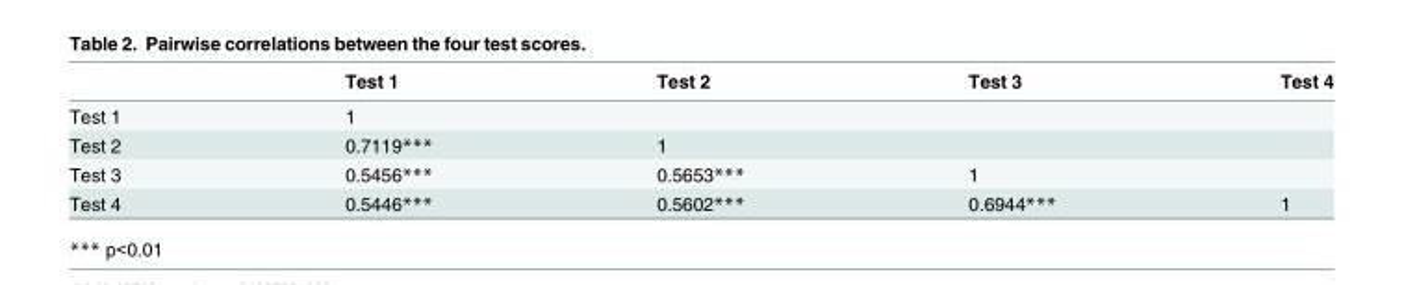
<table><thead><tr><td></td><td>Test 1</td><td>Test 2</td><td>Test 3</td><td>Test 4</td></tr></thead><tbody><tr><td>Test 1</td><td>1</td><td></td><td></td><td></td></tr><tr><td>Test 2</td><td>0.7119***</td><td>1</td><td></td><td></td></tr><tr><td>Test 3</td><td>0.5456***</td><td>0.5653***</td><td>1</td><td></td></tr><tr><td>Test 4</td><td>0.5446***</td><td>0.5602***</td><td>0.6944***</td><td>1</td></tr></tbody></table>